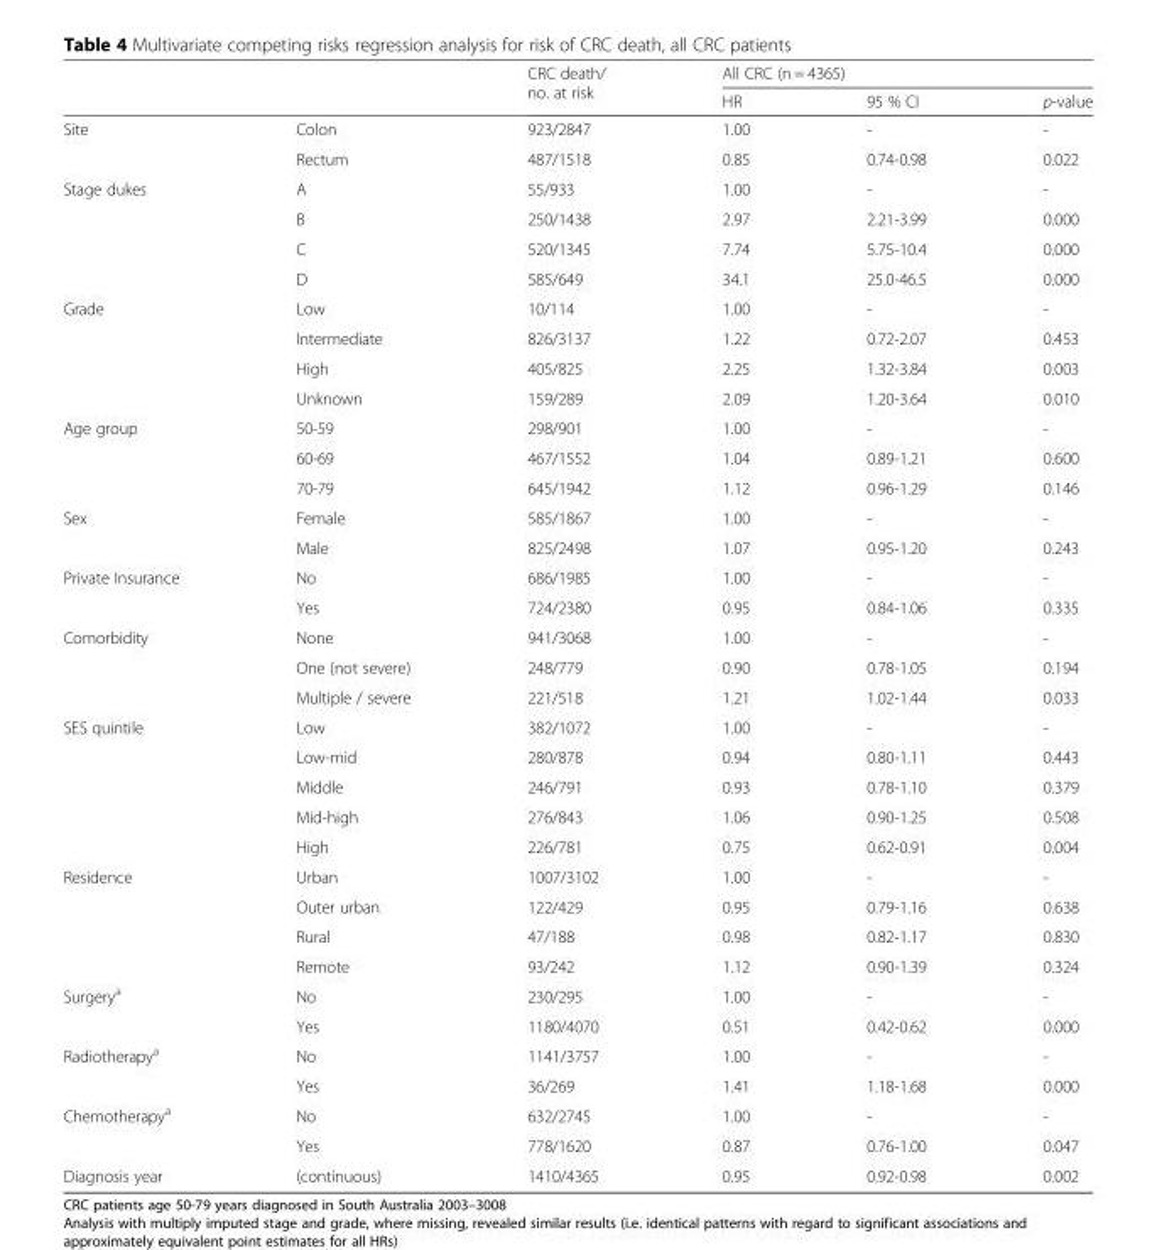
<table><thead><tr><td rowspan="2"></td><td rowspan="2"></td><td rowspan="2">CRC death/ no. at risk</td><td colspan="3">All CRC (n = 4365)</td></tr><tr><td>HR</td><td>95 % CI</td><td>p-value</td></tr></thead><tbody><tr><td rowspan="2">Site</td><td>Colon</td><td>923/2847</td><td>1.00</td><td>-</td><td>-</td></tr><tr><td>Rectum</td><td>487/1518</td><td>0.85</td><td>0.74-0.98</td><td>0.022</td></tr><tr><td rowspan="4">Stage dukes</td><td>A</td><td>55/933</td><td>1.00</td><td>-</td><td>-</td></tr><tr><td>B</td><td>250/1438</td><td>2.97</td><td>2.21-3.99</td><td>0.000</td></tr><tr><td>C</td><td>520/1345</td><td>7.74</td><td>5.75-10.4</td><td>0.000</td></tr><tr><td>D</td><td>585/649</td><td>34.1</td><td>25.0-46.5</td><td>0.000</td></tr><tr><td rowspan="4">Grade</td><td>Low</td><td>10/114</td><td>1.00</td><td>-</td><td>-</td></tr><tr><td>Intermediate</td><td>826/3137</td><td>1.22</td><td>0.72-2.07</td><td>0.453</td></tr><tr><td>High</td><td>405/825</td><td>2.25</td><td>1.32-3.84</td><td>0.003</td></tr><tr><td>Unknown</td><td>159/289</td><td>2.09</td><td>1.20-3.64</td><td>0.010</td></tr><tr><td rowspan="3">Age group</td><td>50-59</td><td>298/901</td><td>1.00</td><td>-</td><td>-</td></tr><tr><td>60-69</td><td>467/1552</td><td>1.04</td><td>0.89-1.21</td><td>0.600</td></tr><tr><td>70-79</td><td>645/1942</td><td>1.12</td><td>0.96-1.29</td><td>0.146</td></tr><tr><td rowspan="2">Sex</td><td>Female</td><td>585/1867</td><td>1.00</td><td>-</td><td>-</td></tr><tr><td>Male</td><td>825/2498</td><td>1.07</td><td>0.95-1.20</td><td>0.243</td></tr><tr><td rowspan="2">Private Insurance</td><td>No</td><td>686/1985</td><td>1.00</td><td>-</td><td>-</td></tr><tr><td>Yes</td><td>724/2380</td><td>0.95</td><td>0.84-1.06</td><td>0.335</td></tr><tr><td rowspan="3">Comorbidity</td><td>None</td><td>941/3068</td><td>1.00</td><td>-</td><td>-</td></tr><tr><td>One (not severe)</td><td>248/779</td><td>0.90</td><td>0.78-1.05</td><td>0.194</td></tr><tr><td>Multiple / severe</td><td>221/518</td><td>1.21</td><td>1.02-1.44</td><td>0.033</td></tr><tr><td rowspan="5">SES quintile</td><td>Low</td><td>382/1072</td><td>1.00</td><td>-</td><td>-</td></tr><tr><td>Low-mid</td><td>280/878</td><td>0.94</td><td>0.80-1.11</td><td>0.443</td></tr><tr><td>Middle</td><td>246/791</td><td>0.93</td><td>0.78-1.10</td><td>0.379</td></tr><tr><td>Mid-high</td><td>276/843</td><td>1.06</td><td>0.90-1.25</td><td>0.508</td></tr><tr><td>High</td><td>226/781</td><td>0.75</td><td>0.62-0.91</td><td>0.004</td></tr><tr><td rowspan="4">Residence</td><td>Urban</td><td>1007/3102</td><td>1.00</td><td>-</td><td>-</td></tr><tr><td>Outer urban</td><td>122/429</td><td>0.95</td><td>0.79-1.16</td><td>0.638</td></tr><tr><td>Rural</td><td>47/188</td><td>0.98</td><td>0.82-1.17</td><td>0.830</td></tr><tr><td>Remote</td><td>93/242</td><td>1.12</td><td>0.90-1.39</td><td>0.324</td></tr><tr><td rowspan="2">Surgery<sup>a</sup></td><td>No</td><td>230/295</td><td>1.00</td><td>-</td><td>-</td></tr><tr><td>Yes</td><td>1180/4070</td><td>0.51</td><td>0.42-0.62</td><td>0.000</td></tr><tr><td rowspan="2">Radiotherapy<sup>a</sup></td><td>No</td><td>1141/3757</td><td>1.00</td><td>-</td><td>-</td></tr><tr><td>Yes</td><td>36/269</td><td>1.41</td><td>1.18-1.68</td><td>0.000</td></tr><tr><td rowspan="2">Chemotherapy<sup>a</sup></td><td>No</td><td>632/2745</td><td>1.00</td><td>-</td><td>-</td></tr><tr><td>Yes</td><td>778/1620</td><td>0.87</td><td>0.76-1.00</td><td>0.047</td></tr><tr><td>Diagnosis year</td><td>(continuous)</td><td>1410/4365</td><td>0.95</td><td>0.92-0.98</td><td>0.002</td></tr></tbody></table>